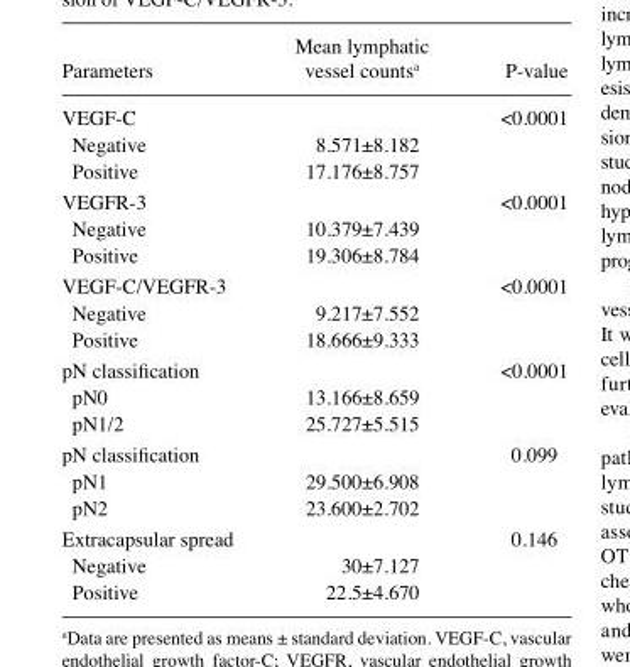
<table><thead><tr><td>Parameters</td><td>vessel countsa</td><td>P-value</td></tr></thead><tbody><tr><td>VEGF-C</td><td></td><td>&lt;0.0001</td></tr><tr><td>Negative</td><td>8.571±8.182</td><td></td></tr><tr><td>Positive</td><td>17.176±8.757</td><td></td></tr><tr><td>VEGFR-3</td><td></td><td>&lt;0.0001</td></tr><tr><td>Negative</td><td>10.379±7.439</td><td></td></tr><tr><td>Positive</td><td>19.306±8.784</td><td></td></tr><tr><td>VEGF-C/VEGFR-3</td><td></td><td>&lt;0.0001</td></tr><tr><td>Negative</td><td>9.217±7.552</td><td></td></tr><tr><td>Positive</td><td>18.666±9.333</td><td></td></tr><tr><td>pN classification</td><td></td><td>&lt;0.0001</td></tr><tr><td>pN0</td><td>13.166±8.659</td><td></td></tr><tr><td>pN1/2</td><td>25.727±5.515</td><td></td></tr><tr><td>pN classification</td><td></td><td>0.099</td></tr><tr><td>pN1</td><td>29.500±6.908</td><td></td></tr><tr><td>pN2</td><td>23.600±2.702</td><td></td></tr><tr><td>Extracapsular spread</td><td></td><td>0.146</td></tr><tr><td>Negative</td><td>30±7.127</td><td></td></tr><tr><td>Positive</td><td>22.5±4.670</td><td></td></tr></tbody></table>